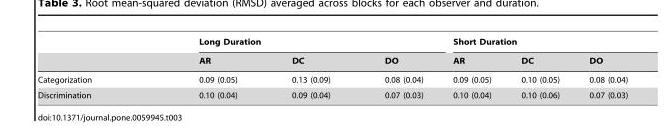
<table><thead><tr><td rowspan="2"></td><td colspan="3">Long Duration</td><td colspan="3">Short Duration</td></tr><tr><td>AR</td><td>DC</td><td>DO</td><td>AR</td><td>DC</td><td>DO</td></tr></thead><tbody><tr><td>Categorization</td><td>0.09 (0.05)</td><td>0.13 (0.09)</td><td>0.08 (0.04)</td><td>0.09 (0.05)</td><td>0.10 (0.05)</td><td>0.08 (0.04)</td></tr><tr><td>Discrimination</td><td>0.10 (0.04)</td><td>0.09 (0.04)</td><td>0.07 (0.03)</td><td>0.10 (0.04)</td><td>0.10 (0.06)</td><td>0.07 (0.03)</td></tr></tbody></table>